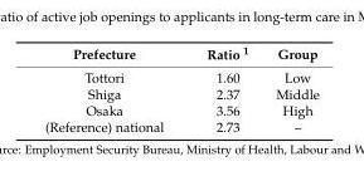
<table><thead><tr><td>Prefecture</td><td>Ratio <sup>1</sup></td><td>Group</td></tr></thead><tbody><tr><td>Tottori</td><td>1.60</td><td>Low</td></tr><tr><td>Shiga</td><td>2.37</td><td>Middle</td></tr><tr><td>Osaka</td><td>3.56</td><td>High</td></tr><tr><td>(Reference) national</td><td>2.73</td><td>–</td></tr></tbody></table>